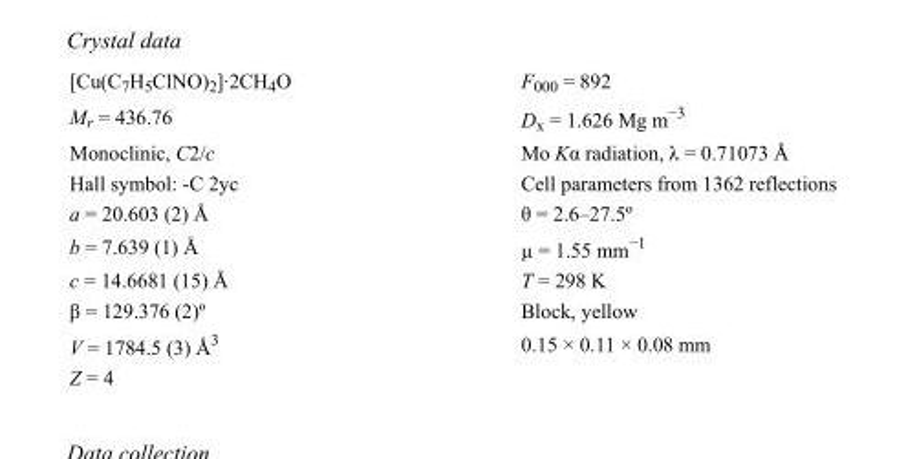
<table><tbody><tr><td>[Cu(C<sub>7</sub>H<sub>5</sub>ClNO)<sub>2</sub>]·2CH<sub>4</sub>O</td><td>F000 = 892</td></tr><tr><td>M<sub>r</sub> = 436.76</td><td>D<sub>x</sub> = 1.626 Mg m<sup>−3</sup></td></tr><tr><td>Monoclinic, C2/c</td><td>Mo Kα radiation, λ = 0.71073 Å</td></tr><tr><td>Hall symbol: -C 2yc</td><td>Cell parameters from 1362 reflections</td></tr><tr><td>a = 20.603 (2) Å</td><td>θ = 2.6–27.5º</td></tr><tr><td>b = 7.639 (1) Å</td><td>µ = 1.55 mm<sup>−1</sup></td></tr><tr><td>c = 14.6681 (15) Å</td><td>T = 298 K</td></tr><tr><td>β = 129.376 (2)º</td><td>Block, yellow</td></tr><tr><td>V = 1784.5 (3) Å<sup>3</sup></td><td>0.15 × 0.11 × 0.08 mm</td></tr><tr><td>Z = 4</td><td></td></tr></tbody></table>